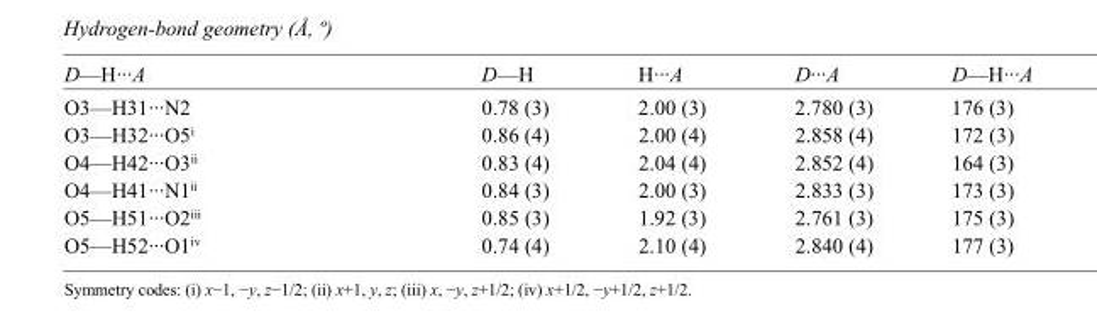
<table><tbody><tr><td>D—H···A</td><td>D—H</td><td>H···A</td><td>D···A</td><td>D—H···A</td></tr><tr><td>O3—H31···N2</td><td>0.78 (3)</td><td>2.00 (3)</td><td>2.780 (3)</td><td>176 (3)</td></tr><tr><td>O3—H32···O5<sup>i</sup></td><td>0.86 (4)</td><td>2.00 (4)</td><td>2.858 (4)</td><td>172 (3)</td></tr><tr><td>O4—H42···O3<sup>ii</sup></td><td>0.83 (4)</td><td>2.04 (4)</td><td>2.852 (4)</td><td>164 (3)</td></tr><tr><td>O4—H41···N1<sup>ii</sup></td><td>0.84 (3)</td><td>2.00 (3)</td><td>2.833 (3)</td><td>173 (3)</td></tr><tr><td>O5—H51···O2<sup>iii</sup></td><td>0.85 (3)</td><td>1.92 (3)</td><td>2.761 (3)</td><td>175 (3)</td></tr><tr><td>O5—H52···O1<sup>iv</sup></td><td>0.74 (4)</td><td>2.10 (4)</td><td>2.840 (4)</td><td>177 (3)</td></tr></tbody></table>